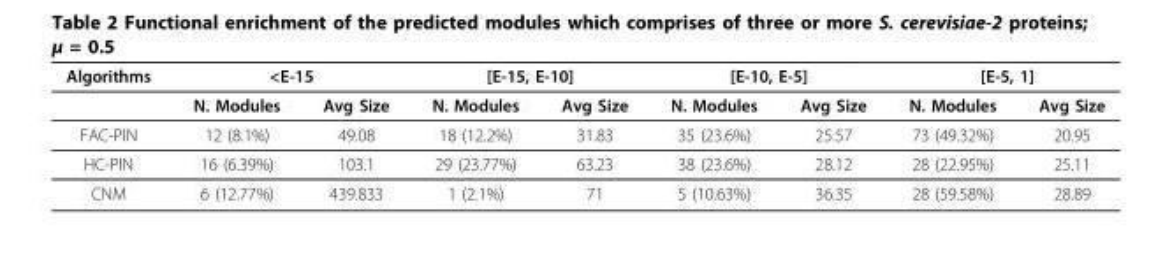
<table><thead><tr><td rowspan="2">Algorithms</td><td colspan="2">&lt;E-15</td><td colspan="2">[E-15, E-10]</td><td colspan="2">[E-10, E-5]</td><td colspan="2">[E-5, 1]</td></tr><tr><td>N. Modules</td><td>Avg Size</td><td>N. Modules</td><td>Avg Size</td><td>N. Modules</td><td>Avg Size</td><td>N. Modules</td><td>Avg Size</td></tr></thead><tbody><tr><td>FAC-PIN</td><td>12 (8.1%)</td><td>49.08</td><td>18 (12.2%)</td><td>31.83</td><td>35 (23.6%)</td><td>25.57</td><td>73 (49.32%)</td><td>20.95</td></tr><tr><td>HC-PIN</td><td>16 (6.39%)</td><td>103.1</td><td>29 (23.77%)</td><td>63.23</td><td>38 (23.6%)</td><td>28.12</td><td>28 (22.95%)</td><td>25.11</td></tr><tr><td>CNM</td><td>6 (12.77%)</td><td>439.833</td><td>1 (2.1%)</td><td>71</td><td>5 (10.63%)</td><td>36.35</td><td>28 (59.58%)</td><td>28.89</td></tr></tbody></table>